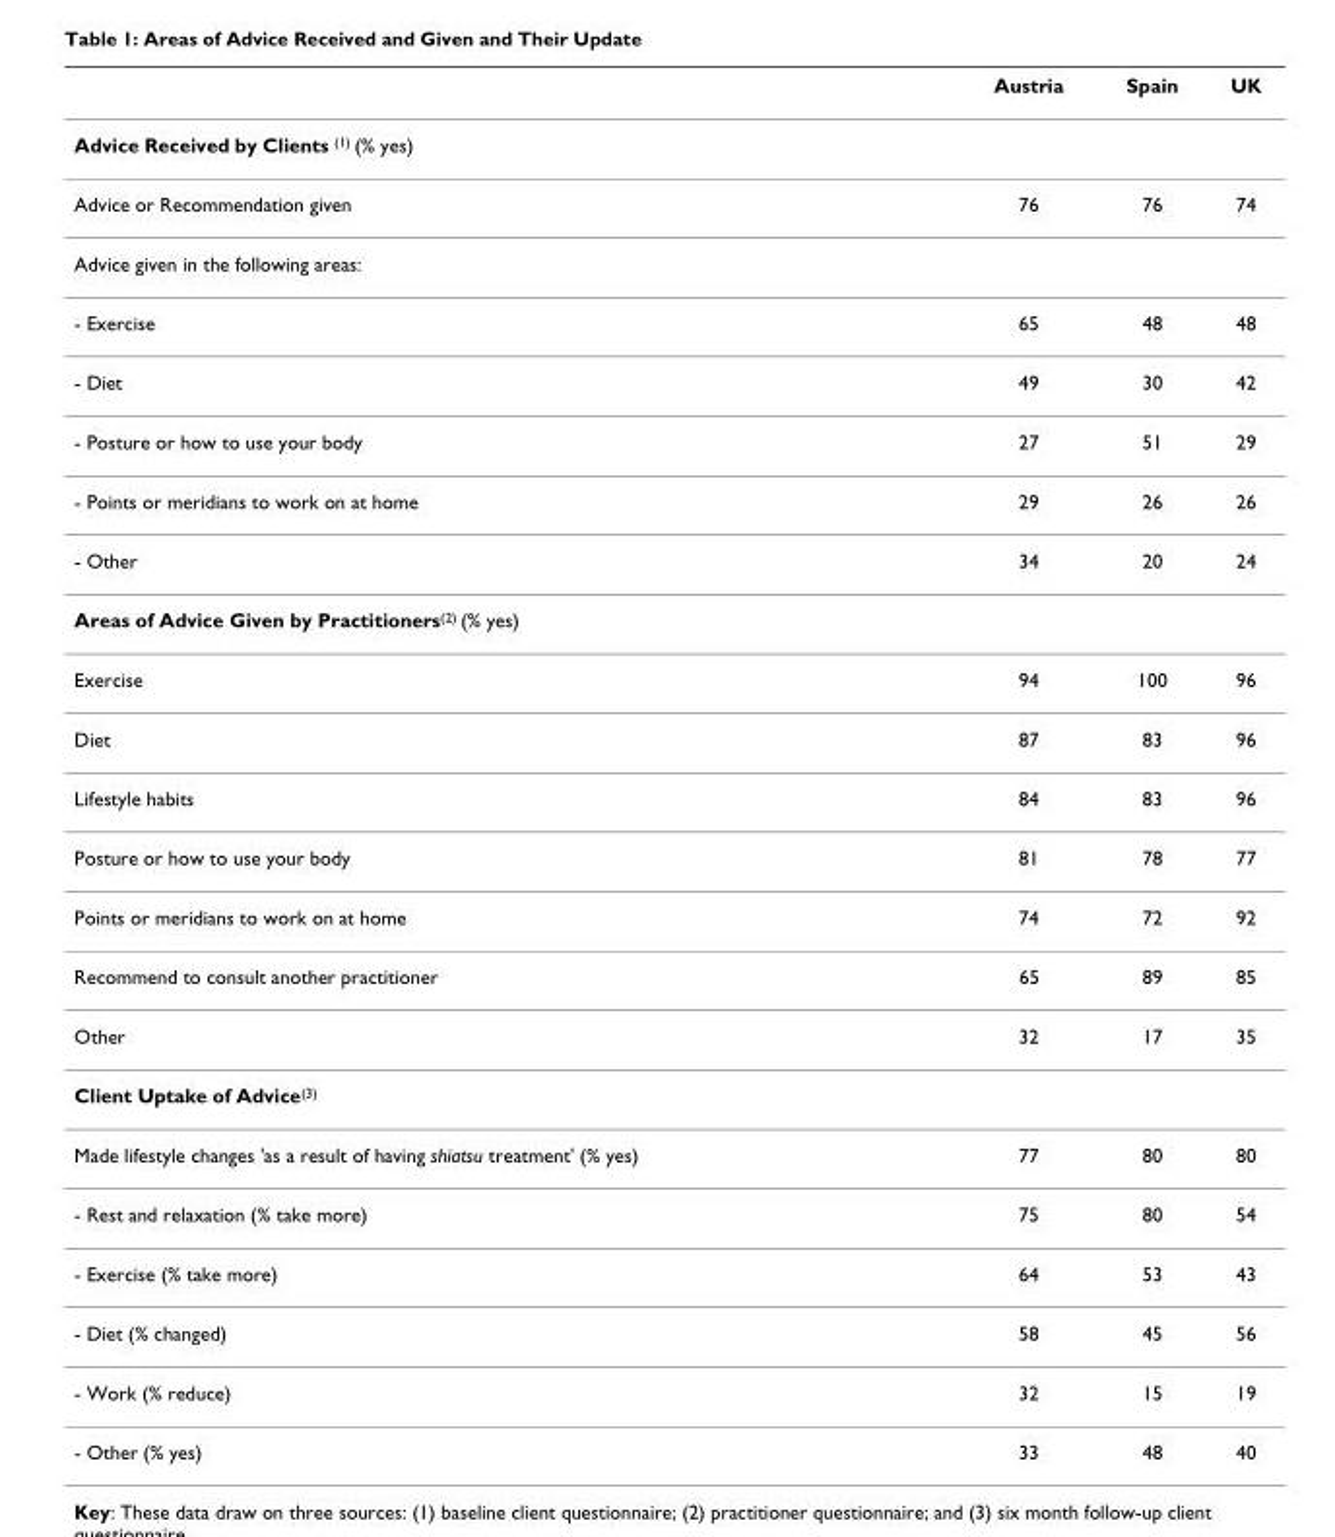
<table><thead><tr><td></td><td>Austria</td><td>Spain</td><td>UK</td></tr></thead><tbody><tr><td colspan="4">Advice Received by Clients (1) (% yes)</td></tr><tr><td>Advice or Recommendation given</td><td>76</td><td>76</td><td>74</td></tr><tr><td colspan="4">Advice given in the following areas:</td></tr><tr><td>- Exercise</td><td>65</td><td>48</td><td>48</td></tr><tr><td>- Diet</td><td>49</td><td>30</td><td>42</td></tr><tr><td>- Posture or how to use your body</td><td>27</td><td>51</td><td>29</td></tr><tr><td>- Points or meridians to work on at home</td><td>29</td><td>26</td><td>26</td></tr><tr><td>- Other</td><td>34</td><td>20</td><td>24</td></tr><tr><td colspan="4">Areas of Advice Given by Practitioners(2) (% yes)</td></tr><tr><td>Exercise</td><td>94</td><td>100</td><td>96</td></tr><tr><td>Diet</td><td>87</td><td>83</td><td>96</td></tr><tr><td>Lifestyle habits</td><td>84</td><td>83</td><td>96</td></tr><tr><td>Posture or how to use your body</td><td>81</td><td>78</td><td>77</td></tr><tr><td>Points or meridians to work on at home</td><td>74</td><td>72</td><td>92</td></tr><tr><td>Recommend to consult another practitioner</td><td>65</td><td>89</td><td>85</td></tr><tr><td>Other</td><td>32</td><td>17</td><td>35</td></tr><tr><td colspan="4">Client Uptake of Advice(3)</td></tr><tr><td>Made lifestyle changes &#x27;as a result of having shiatsu treatment&#x27; (% yes)</td><td>77</td><td>80</td><td>80</td></tr><tr><td>- Rest and relaxation (% take more)</td><td>75</td><td>80</td><td>54</td></tr><tr><td>- Exercise (% take more)</td><td>64</td><td>53</td><td>43</td></tr><tr><td>- Diet (% changed)</td><td>58</td><td>45</td><td>56</td></tr><tr><td>- Work (% reduce)</td><td>32</td><td>15</td><td>19</td></tr><tr><td>- Other (% yes)</td><td>33</td><td>48</td><td>40</td></tr></tbody></table>